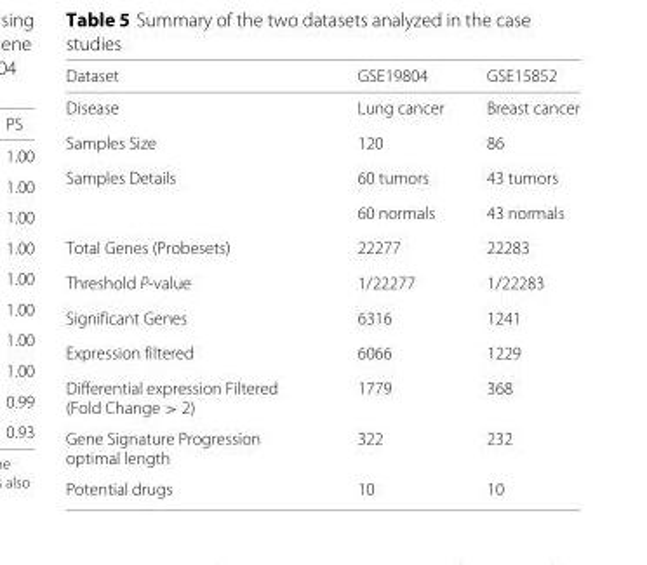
<table><thead><tr><td>Dataset</td><td>GSE19804</td><td>GSE15852</td></tr></thead><tbody><tr><td>Disease</td><td>Lung cancer</td><td>Breast cancer</td></tr><tr><td>Samples Size</td><td>120</td><td>86</td></tr><tr><td rowspan="2">Samples Details</td><td>60 tumors</td><td>43 tumors</td></tr><tr><td>60 normals</td><td>43 normals</td></tr><tr><td>Total Genes (Probesets)</td><td>22277</td><td>22283</td></tr><tr><td>Threshold P-value</td><td>1/22277</td><td>1/22283</td></tr><tr><td>Significant Genes</td><td>6316</td><td>1241</td></tr><tr><td>Expression filtered</td><td>6066</td><td>1229</td></tr><tr><td>Differential expression Filtered (Fold Change &gt; 2)</td><td>1779</td><td>368</td></tr><tr><td>Gene Signature Progression optimal length</td><td>322</td><td>232</td></tr><tr><td>Potential drugs</td><td>10</td><td>10</td></tr></tbody></table>